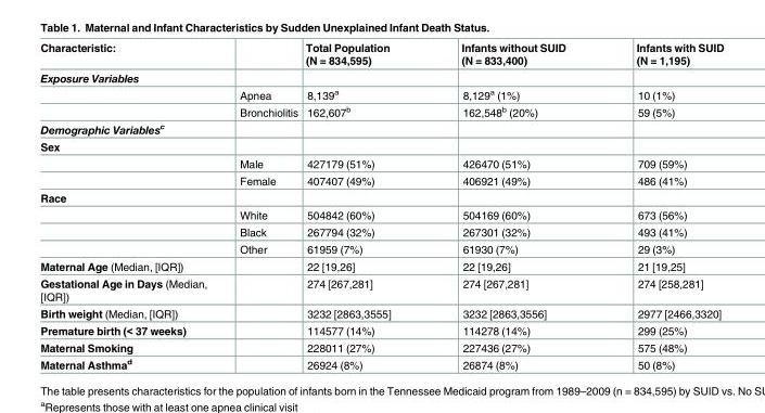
<table><thead><tr><td>Characteristic:</td><td></td><td>Total Population (N = 834,595)</td><td>Infants without SUID (N = 833,400)</td><td>Infants with SUID (N = 1,195)</td></tr></thead><tbody><tr><td colspan="5">Exposure Variables</td></tr><tr><td></td><td>Apnea</td><td>8,139<sup>a</sup></td><td>8,129<sup>a</sup> (1%)</td><td>10 (1%)</td></tr><tr><td></td><td>Bronchiolitis</td><td>162,607<sup>b</sup></td><td>162,548<sup>b</sup> (20%)</td><td>59 (5%)</td></tr><tr><td colspan="5">Demographic Variables<sup>c</sup></td></tr><tr><td colspan="5">Sex</td></tr><tr><td></td><td>Male</td><td>427179 (51%)</td><td>426470 (51%)</td><td>709 (59%)</td></tr><tr><td></td><td>Female</td><td>407407 (49%)</td><td>406921 (49%)</td><td>486 (41%)</td></tr><tr><td colspan="5">Race</td></tr><tr><td></td><td>White</td><td>504842 (60%)</td><td>504169 (60%)</td><td>673 (56%)</td></tr><tr><td></td><td>Black</td><td>267794 (32%)</td><td>267301 (32%)</td><td>493 (41%)</td></tr><tr><td></td><td>Other</td><td>61959 (7%)</td><td>61930 (7%)</td><td>29 (3%)</td></tr><tr><td>Maternal Age (Median, [IQR])</td><td></td><td>22 [19,26]</td><td>22 [19,26]</td><td>21 [19,25]</td></tr><tr><td>Gestational Age in Days (Median, [IQR])</td><td></td><td>274 [267,281]</td><td>274 [267,281]</td><td>274 [258,281]</td></tr><tr><td>Birth weight (Median, [IQR])</td><td></td><td>3232 [2863,3555]</td><td>3232 [2863,3556]</td><td>2977 [2466,3320]</td></tr><tr><td>Premature birth (&lt; 37 weeks)</td><td></td><td>114577 (14%)</td><td>114278 (14%)</td><td>299 (25%)</td></tr><tr><td>Maternal Smoking</td><td></td><td>228011 (27%)</td><td>227436 (27%)</td><td>575 (48%)</td></tr><tr><td>Maternal Asthma<sup>d</sup></td><td></td><td>26924 (8%)</td><td>26874 (8%)</td><td>50 (8%)</td></tr></tbody></table>